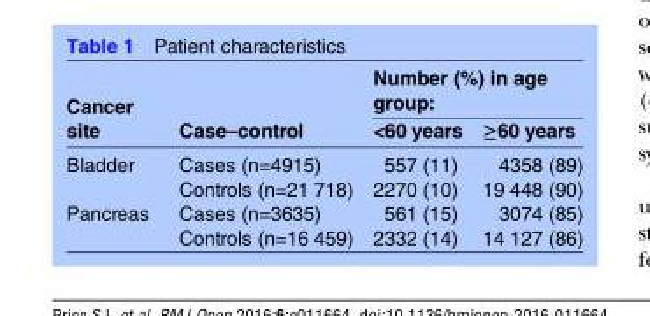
<table><thead><tr><td rowspan="2">Cancer site</td><td rowspan="2">Case–control</td><td colspan="2">Number (%) in age group:</td></tr><tr><td>&lt;60 years</td><td>≥60 years</td></tr></thead><tbody><tr><td rowspan="2">Bladder</td><td>Cases (n=4915)</td><td>557 (11)</td><td>4358 (89)</td></tr><tr><td>Controls (n=21 718)</td><td>2270 (10)</td><td>19 448 (90)</td></tr><tr><td rowspan="2">Pancreas</td><td>Cases (n=3635)</td><td>561 (15)</td><td>3074 (85)</td></tr><tr><td>Controls (n=16 459)</td><td>2332 (14)</td><td>14 127 (86)</td></tr></tbody></table>